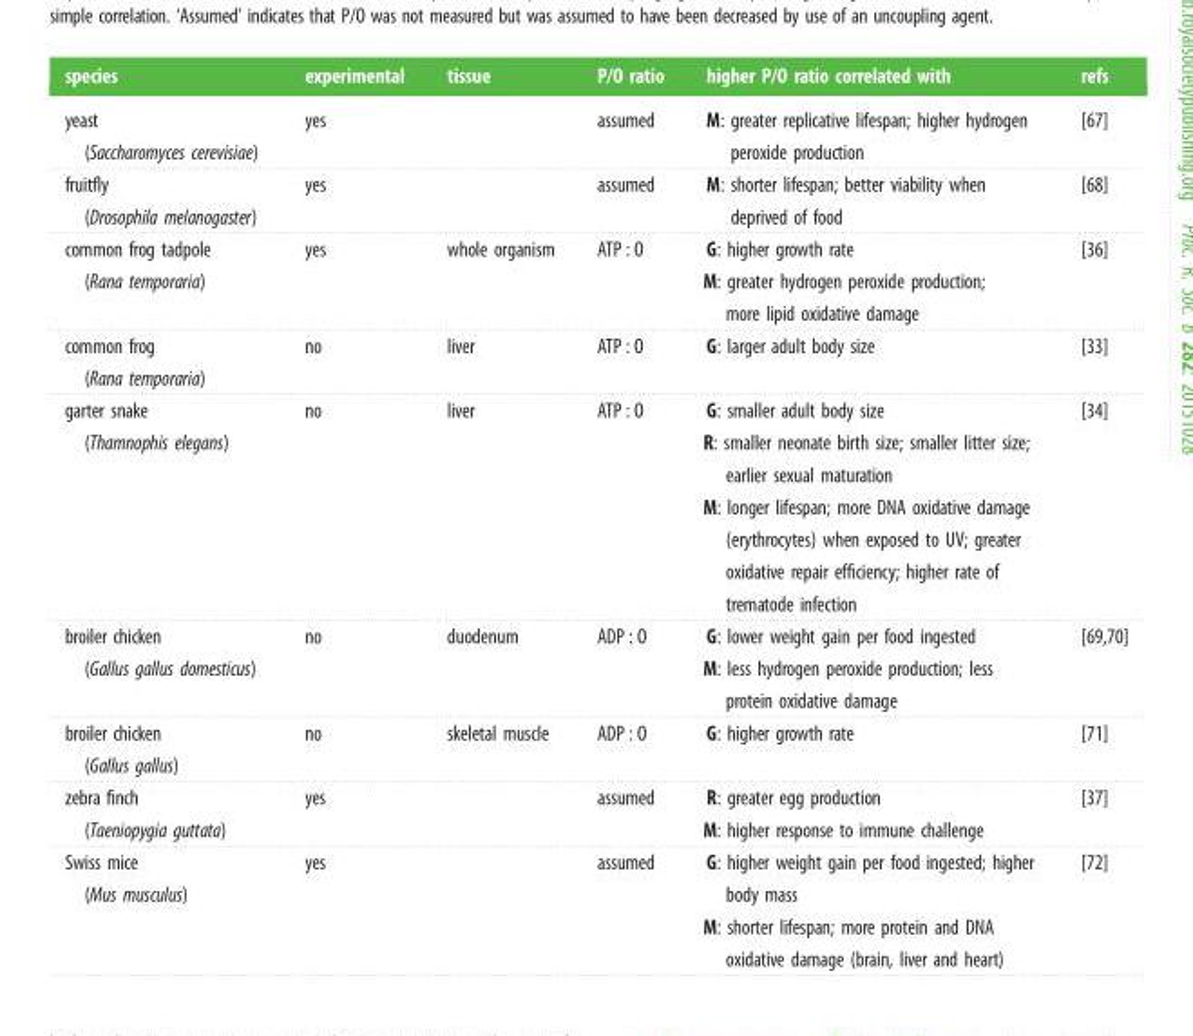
<table><thead><tr><td>species</td><td>experimental</td><td>tissue</td><td>P/O ratio</td><td>higher P/O ratio correlated with</td><td>refs</td></tr></thead><tbody><tr><td>yeast (Saccharomyces cerevisiae)</td><td>yes</td><td></td><td>assumed</td><td>M: greater replicative lifespan; higher hydrogen peroxide production</td><td>[67]</td></tr><tr><td>fruitfly (Drosophila melanogaster)</td><td>yes</td><td></td><td>assumed</td><td>M: shorter lifespan; better viability when deprived of food</td><td>[68]</td></tr><tr><td>common frog tadpole (Rana temporaria)</td><td>yes</td><td>whole organism</td><td>ATP : O</td><td>G: higher growth rate M: greater hydrogen peroxide production; more lipid oxidative damage</td><td>[36]</td></tr><tr><td>common frog (Rana temporaria)</td><td>no</td><td>liver</td><td>ATP : O</td><td>G: larger adult body size</td><td>[33]</td></tr><tr><td>garter snake (Thamnophis elegans)</td><td>no</td><td>liver</td><td>ATP : O</td><td>G: smaller adult body size R: smaller neonate birth size; smaller litter size; earlier sexual maturation M: longer lifespan; more DNA oxidative damage (erythrocytes) when exposed to UV; greater oxidative repair efficiency; higher rate of trematode infection</td><td>[34]</td></tr><tr><td>broiler chicken (Gallus gallus domesticus)</td><td>no</td><td>duodenum</td><td>ADP : O</td><td>G: lower weight gain per food ingested M: less hydrogen peroxide production; less protein oxidative damage</td><td>[69,70]</td></tr><tr><td>broiler chicken (Gallus gallus)</td><td>no</td><td>skeletal muscle</td><td>ADP : O</td><td>G: higher growth rate</td><td>[71]</td></tr><tr><td>zebra finch (Taeniopygia guttata)</td><td>yes</td><td></td><td>assumed</td><td>R: greater egg production M: higher response to immune challenge</td><td>[37]</td></tr><tr><td>Swiss mice (Mus musculus)</td><td>yes</td><td></td><td>assumed</td><td>G: higher weight gain per food ingested; higher body mass M: shorter lifespan; more protein and DNA oxidative damage (brain, liver and heart)</td><td>[72]</td></tr></tbody></table>